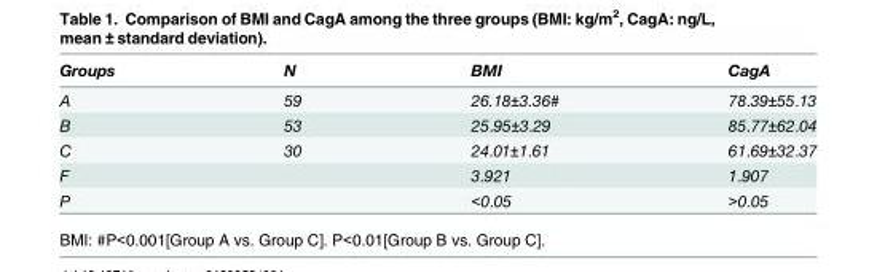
<table><thead><tr><td>Groups</td><td>N</td><td>BMI</td><td>CagA</td></tr></thead><tbody><tr><td>A</td><td>59</td><td>26.18±3.36#</td><td>78.39±55.13</td></tr><tr><td>B</td><td>53</td><td>25.95±3.29</td><td>85.77±62.04</td></tr><tr><td>C</td><td>30</td><td>24.01±1.61</td><td>61.69±32.37</td></tr><tr><td>F</td><td></td><td>3.921</td><td>1.907</td></tr><tr><td>P</td><td></td><td>&lt;0.05</td><td>&gt;0.05</td></tr></tbody></table>